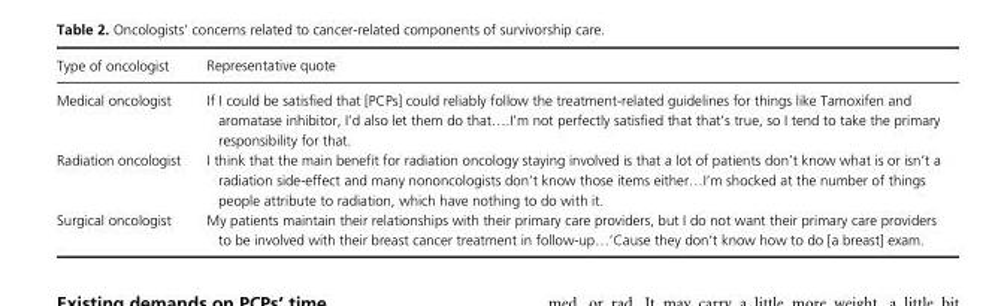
<table><thead><tr><td>Type of oncologist</td><td>Representative quote</td></tr></thead><tbody><tr><td>Medical oncologist</td><td>If I could be satisfied that [PCPs] could reliably follow the treatment- related guidelines for things like Tamoxifen and aromatase inhibitor, I’d also let them do that….I’m not perfectly satisfied that that’s true, so I tend to take the primary responsibility for that.</td></tr><tr><td>Radiation oncologist</td><td>I think that the main benefit for radiation oncology staying involved is that a lot of patients don’t know what is or isn’t a radiation side- effect and many nononcologists don’t know those items either…I’m shocked at the number of things people attribute to radiation, which have nothing to do with it.</td></tr><tr><td>Surgical oncologist</td><td>My patients maintain their relationships with their primary care providers, but I do not want their primary care providers to be involved with their breast cancer treatment in follow- up…’Cause they don’t know how to do [a breast] exam.</td></tr></tbody></table>